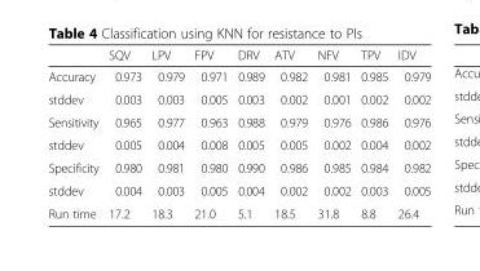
<table><thead><tr><td></td><td>SQV</td><td>LPV</td><td>FPV</td><td>DRV</td><td>ATV</td><td>NFV</td><td>TPV</td><td>IDV</td></tr></thead><tbody><tr><td>Accuracy</td><td>0.973</td><td>0.979</td><td>0.971</td><td>0.989</td><td>0.982</td><td>0.981</td><td>0.985</td><td>0.979</td></tr><tr><td>stddev</td><td>0.003</td><td>0.003</td><td>0.005</td><td>0.003</td><td>0.002</td><td>0.001</td><td>0.002</td><td>0.002</td></tr><tr><td>Sensitivity</td><td>0.965</td><td>0.977</td><td>0.963</td><td>0.988</td><td>0.979</td><td>0.976</td><td>0.986</td><td>0.976</td></tr><tr><td>stddev</td><td>0.005</td><td>0.004</td><td>0.008</td><td>0.005</td><td>0.005</td><td>0.002</td><td>0.004</td><td>0.002</td></tr><tr><td>Specificity</td><td>0.980</td><td>0.981</td><td>0.980</td><td>0.990</td><td>0.986</td><td>0.985</td><td>0.984</td><td>0.982</td></tr><tr><td>stddev</td><td>0.004</td><td>0.003</td><td>0.005</td><td>0.004</td><td>0.002</td><td>0.002</td><td>0.003</td><td>0.005</td></tr><tr><td>Run time</td><td>17.2</td><td>18.3</td><td>21.0</td><td>5.1</td><td>18.5</td><td>31.8</td><td>8.8</td><td>26.4</td></tr></tbody></table>